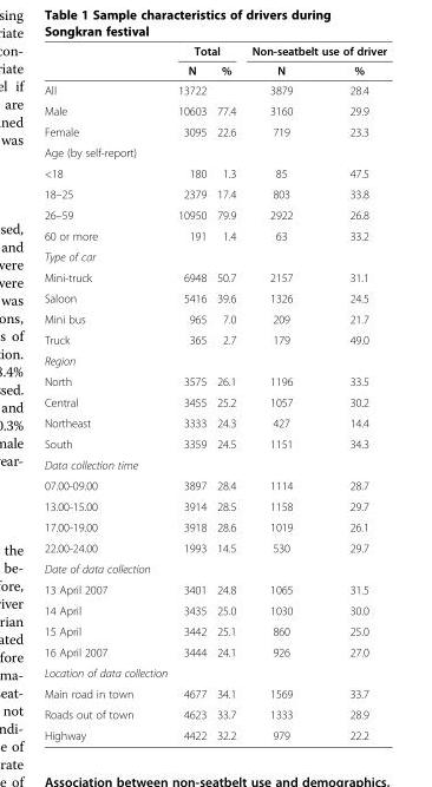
<table><thead><tr><td rowspan="2"></td><td colspan="2">Total</td><td colspan="2">Non-seatbelt use of driver</td></tr><tr><td>N</td><td>%</td><td>N</td><td>%</td></tr></thead><tbody><tr><td>All</td><td>13722</td><td></td><td>3879</td><td>28.4</td></tr><tr><td>Male</td><td>10603</td><td>77.4</td><td>3160</td><td>29.9</td></tr><tr><td>Female</td><td>3095</td><td>22.6</td><td>719</td><td>23.3</td></tr><tr><td colspan="5">Age (by self-report)</td></tr><tr><td>&lt;18</td><td>180</td><td>1.3</td><td>85</td><td>47.5</td></tr><tr><td>18–25</td><td>2379</td><td>17.4</td><td>803</td><td>33.8</td></tr><tr><td>26–59</td><td>10950</td><td>79.9</td><td>2922</td><td>26.8</td></tr><tr><td>60 or more</td><td>191</td><td>1.4</td><td>63</td><td>33.2</td></tr><tr><td colspan="5">Type of car</td></tr><tr><td>Mini-truck</td><td>6948</td><td>50.7</td><td>2157</td><td>31.1</td></tr><tr><td>Saloon</td><td>5416</td><td>39.6</td><td>1326</td><td>24.5</td></tr><tr><td>Mini bus</td><td>965</td><td>7.0</td><td>209</td><td>21.7</td></tr><tr><td>Truck</td><td>365</td><td>2.7</td><td>179</td><td>49.0</td></tr><tr><td colspan="5">Region</td></tr><tr><td>North</td><td>3575</td><td>26.1</td><td>1196</td><td>33.5</td></tr><tr><td>Central</td><td>3455</td><td>25.2</td><td>1057</td><td>30.2</td></tr><tr><td>Northeast</td><td>3333</td><td>24.3</td><td>427</td><td>14.4</td></tr><tr><td>South</td><td>3359</td><td>24.5</td><td>1151</td><td>34.3</td></tr><tr><td colspan="5">Data collection time</td></tr><tr><td>07.00-09.00</td><td>3897</td><td>28.4</td><td>1114</td><td>28.7</td></tr><tr><td>13.00-15.00</td><td>3914</td><td>28.5</td><td>1158</td><td>29.7</td></tr><tr><td>17.00-19.00</td><td>3918</td><td>28.6</td><td>1019</td><td>26.1</td></tr><tr><td>22.00-24.00</td><td>1993</td><td>14.5</td><td>530</td><td>29.7</td></tr><tr><td colspan="5">Date of data collection</td></tr><tr><td>13 April 2007</td><td>3401</td><td>24.8</td><td>1065</td><td>31.5</td></tr><tr><td>14 April</td><td>3435</td><td>25.0</td><td>1030</td><td>30.0</td></tr><tr><td>15 April</td><td>3442</td><td>25.1</td><td>860</td><td>25.0</td></tr><tr><td>16 April 2007</td><td>3444</td><td>24.1</td><td>926</td><td>27.0</td></tr><tr><td colspan="5">Location of data collection</td></tr><tr><td>Main road in town</td><td>4677</td><td>34.1</td><td>1569</td><td>33.7</td></tr><tr><td>Roads out of town</td><td>4623</td><td>33.7</td><td>1333</td><td>28.9</td></tr><tr><td>Highway</td><td>4422</td><td>32.2</td><td>979</td><td>22.2</td></tr></tbody></table>